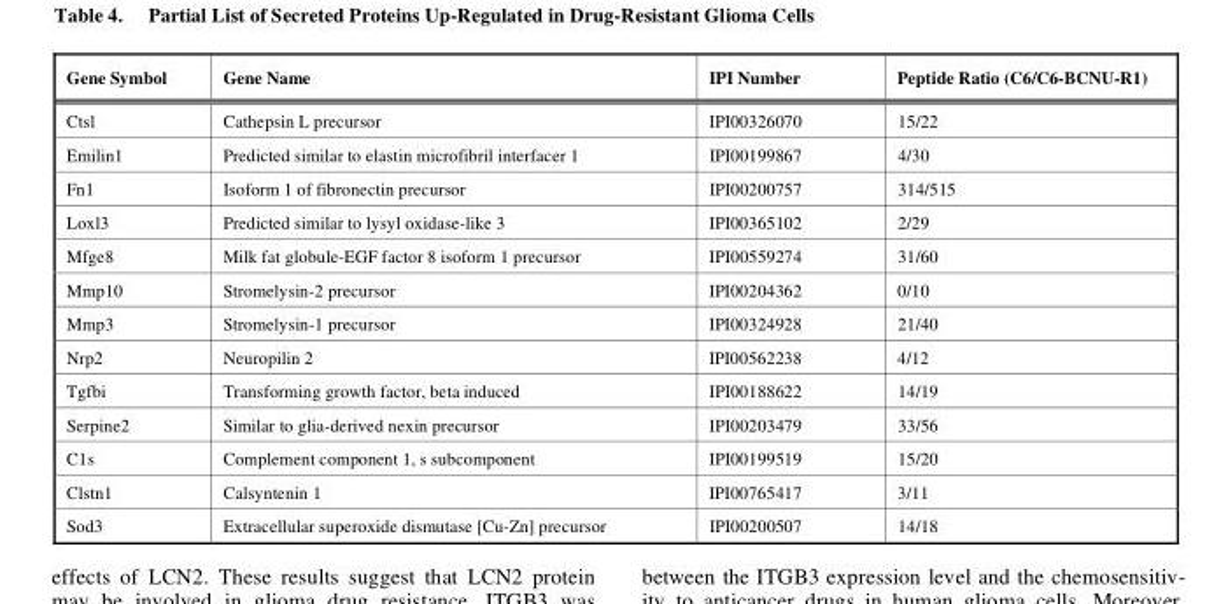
<table><thead><tr><td>Gene Symbol</td><td>Gene Name</td><td>IPI Number</td><td>Peptide Ratio (C6/C6-BCNU-R1)</td></tr></thead><tbody><tr><td>Ctsl</td><td>Cathepsin L precursor</td><td>IPI00326070</td><td>15/22</td></tr><tr><td>Emilin1</td><td>Predicted similar to elastin microfibril interfacer 1</td><td>IPI00199867</td><td>4/30</td></tr><tr><td>Fn1</td><td>Isoform 1 of fibronectin precursor</td><td>IPI00200757</td><td>314/515</td></tr><tr><td>Loxl3</td><td>Predicted similar to lysyl oxidase-like 3</td><td>IPI00365102</td><td>2/29</td></tr><tr><td>Mfge8</td><td>Milk fat globule-EGF factor 8 isoform 1 precursor</td><td>IPI00559274</td><td>31/60</td></tr><tr><td>Mmp10</td><td>Stromelysin-2 precursor</td><td>IPI00204362</td><td>0/10</td></tr><tr><td>Mmp3</td><td>Stromelysin-1 precursor</td><td>IPI00324928</td><td>21/40</td></tr><tr><td>Nrp2</td><td>Neuropilin 2</td><td>IPI00562238</td><td>4/12</td></tr><tr><td>Tgfbi</td><td>Transforming growth factor, beta induced</td><td>IPI00188622</td><td>14/19</td></tr><tr><td>Serpine2</td><td>Similar to glia-derived nexin precursor</td><td>IPI00203479</td><td>33/56</td></tr><tr><td>C1s</td><td>Complement component 1, s subcomponent</td><td>IPI00199519</td><td>15/20</td></tr><tr><td>Clstn1</td><td>Calsyntenin 1</td><td>IPI00765417</td><td>3/11</td></tr><tr><td>Sod3</td><td>Extracellular superoxide dismutase [Cu-Zn] precursor</td><td>IPI00200507</td><td>14/18</td></tr></tbody></table>